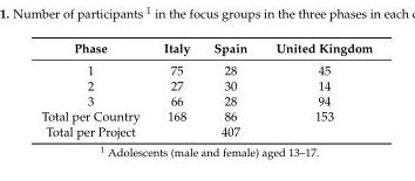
<table><thead><tr><td>Phase</td><td>Italy</td><td>Spain</td><td>United Kingdom</td></tr></thead><tbody><tr><td>1</td><td>75</td><td>28</td><td>45</td></tr><tr><td>2</td><td>27</td><td>30</td><td>14</td></tr><tr><td>3</td><td>66</td><td>28</td><td>94</td></tr><tr><td>Total per Country</td><td>168</td><td>86</td><td>153</td></tr><tr><td>Total per Project</td><td></td><td>407</td><td></td></tr></tbody></table>